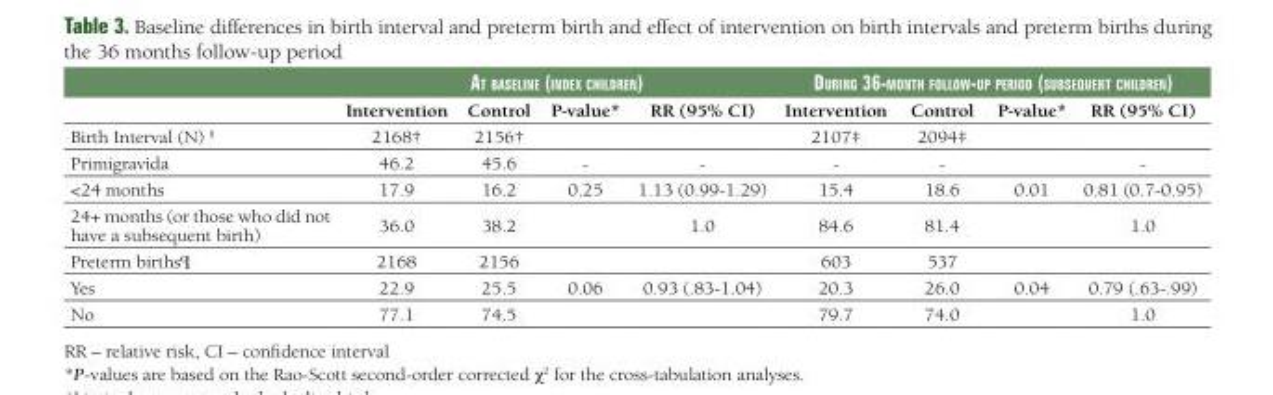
<table><thead><tr><td rowspan="2"></td><td colspan="4">at baselIne (Index ChIldren)</td><td colspan="4">durIng 36-month follow-uP PerIod (subsequent ChIldren)</td></tr><tr><td>Intervention</td><td>Control</td><td>P-value*</td><td>RR (95% CI)</td><td>Intervention</td><td>Control</td><td>P-value*</td><td>RR (95% CI)</td></tr></thead><tbody><tr><td>Birth Interval (N) <sup>§</sup></td><td>2168†</td><td>2156†</td><td></td><td></td><td>2107‡</td><td>2094‡</td><td></td><td></td></tr><tr><td>Primigravida</td><td>46.2</td><td>45.6</td><td>-</td><td>-</td><td>-</td><td>-</td><td></td><td>-</td></tr><tr><td>&lt;24 months</td><td>17.9</td><td>16.2</td><td>0.25</td><td>1.13 (0.99-1.29)</td><td>15.4</td><td>18.6</td><td>0.01</td><td>0.81 (0.7-0.95)</td></tr><tr><td>24+ months (or those who did not have a subsequent birth)</td><td>36.0</td><td>38.2</td><td></td><td>1.0</td><td>84.6</td><td>81.4</td><td></td><td>1.0</td></tr><tr><td>Preterm births¶</td><td>2168</td><td>2156</td><td></td><td></td><td>603</td><td>537</td><td></td><td></td></tr><tr><td>Yes</td><td>22.9</td><td>25.5</td><td>0.06</td><td>0.93 (.83-1.04)</td><td>20.3</td><td>26.0</td><td>0.04</td><td>0.79 (.63-.99)</td></tr><tr><td>No</td><td>77.1</td><td>74.5</td><td></td><td></td><td>79.7</td><td>74.0</td><td></td><td>1.0</td></tr></tbody></table>